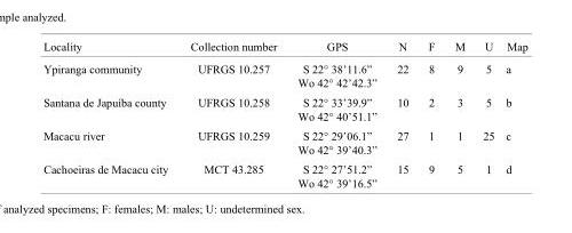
<table><thead><tr><td>Locality</td><td>Collection number</td><td>GPS</td><td>N</td><td>F</td><td>M</td><td>U</td><td>Map</td></tr></thead><tbody><tr><td>Ypiranga community</td><td>UFRGS 10.257</td><td>S 22° 38’11.6” Wo 42° 42’42.3”</td><td>22</td><td>8</td><td>9</td><td>5</td><td>a</td></tr><tr><td>Santana de Japuíba county</td><td>UFRGS 10.258</td><td>S 22° 33’39.9” Wo 42° 40’51.1”</td><td>10</td><td>2</td><td>3</td><td>5</td><td>b</td></tr><tr><td>Macacu river</td><td>UFRGS 10.259</td><td>S 22° 29’06.1” Wo 42° 39’40.3”</td><td>27</td><td>1</td><td>1</td><td>25</td><td>c</td></tr><tr><td>Cachoeiras de Macacu city</td><td>MCT 43.285</td><td>S 22° 27’51.2” Wo 42° 39’16.5”</td><td>15</td><td>9</td><td>5</td><td>1</td><td>d</td></tr></tbody></table>